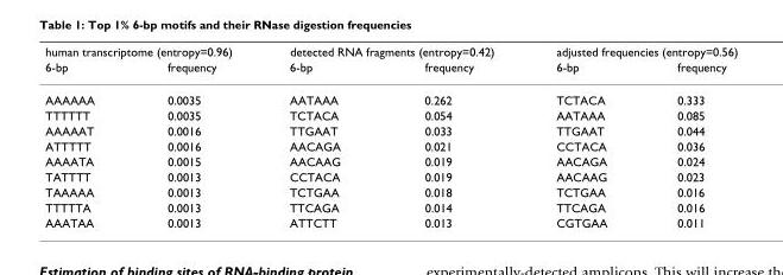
<table><thead><tr><td colspan="2">human transcriptome (entropy=0.96)</td><td colspan="2">detected RNA fragments (entropy=0.42)</td><td colspan="2">adjusted frequencies (entropy=0.56)</td></tr><tr><td>6-bp</td><td>frequency</td><td>6-bp</td><td>frequency</td><td>6-bp</td><td>frequency</td></tr></thead><tbody><tr><td>AAAAAA</td><td>0.0035</td><td>AATAAA</td><td>0.262</td><td>TCTACA</td><td>0.333</td></tr><tr><td>TTTTTT</td><td>0.0035</td><td>TCTACA</td><td>0.054</td><td>AATAAA</td><td>0.085</td></tr><tr><td>AAAAAT</td><td>0.0016</td><td>TTGAAT</td><td>0.033</td><td>TTGAAT</td><td>0.044</td></tr><tr><td>ATTTTT</td><td>0.0016</td><td>AACAGA</td><td>0.021</td><td>CCTACA</td><td>0.036</td></tr><tr><td>AAAATA</td><td>0.0015</td><td>AACAAG</td><td>0.019</td><td>AACAGA</td><td>0.024</td></tr><tr><td>TATTTT</td><td>0.0013</td><td>CCTACA</td><td>0.019</td><td>AACAAG</td><td>0.023</td></tr><tr><td>TAAAAA</td><td>0.0013</td><td>TCTGAA</td><td>0.018</td><td>TCTGAA</td><td>0.016</td></tr><tr><td>TTTTTA</td><td>0.0013</td><td>TTCAGA</td><td>0.014</td><td>TTCAGA</td><td>0.016</td></tr><tr><td>AAATAA</td><td>0.0013</td><td>ATTCTT</td><td>0.013</td><td>CGTGAA</td><td>0.011</td></tr></tbody></table>